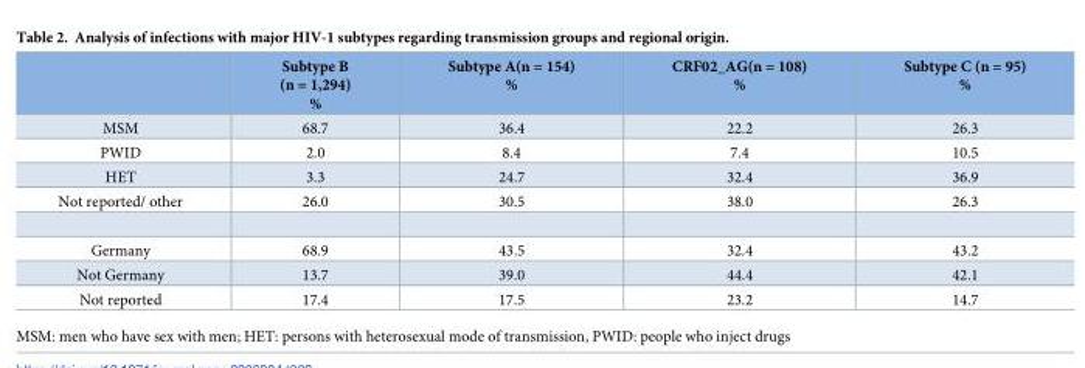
<table><thead><tr><td></td><td>Subtype B (n = 1,294) %</td><td>Subtype A(n = 154) %</td><td>CRF02_AG(n = 108) %</td><td>Subtype C (n = 95) %</td></tr></thead><tbody><tr><td>MSM</td><td>68.7</td><td>36.4</td><td>22.2</td><td>26.3</td></tr><tr><td>PWID</td><td>2.0</td><td>8.4</td><td>7.4</td><td>10.5</td></tr><tr><td>HET</td><td>3.3</td><td>24.7</td><td>32.4</td><td>36.9</td></tr><tr><td>Not reported/ other</td><td>26.0</td><td>30.5</td><td>38.0</td><td>26.3</td></tr><tr><td>Germany</td><td>68.9</td><td>43.5</td><td>32.4</td><td>43.2</td></tr><tr><td>Not Germany</td><td>13.7</td><td>39.0</td><td>44.4</td><td>42.1</td></tr><tr><td>Not reported</td><td>17.4</td><td>17.5</td><td>23.2</td><td>14.7</td></tr></tbody></table>